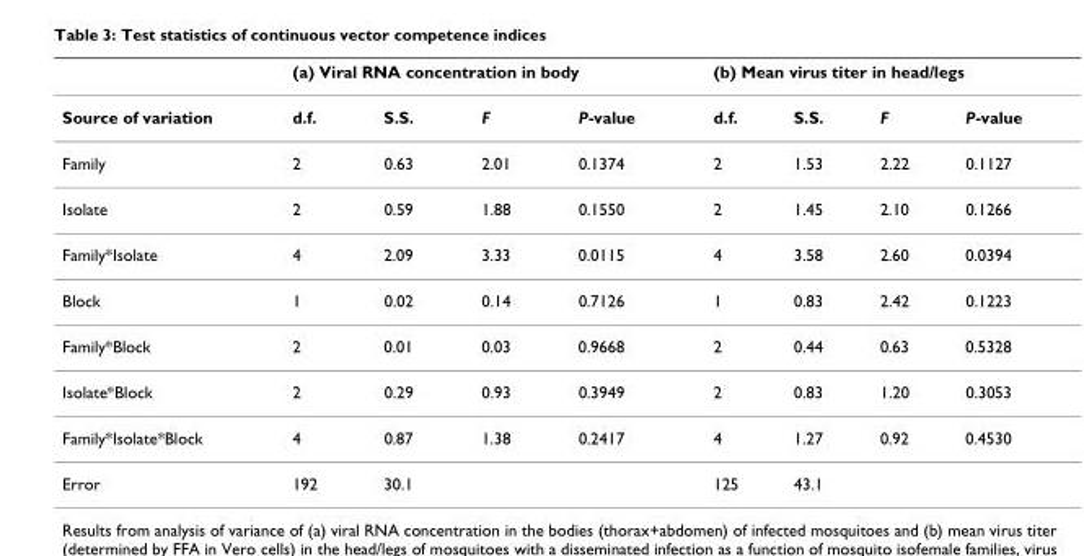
<table><thead><tr><td rowspan="2">Source of variation</td><td colspan="4">(a) Viral RNA concentration in body</td><td colspan="4">(b) Mean virus titer in head/legs</td></tr><tr><td>d.f.</td><td>S.S.</td><td>F</td><td>P-value</td><td>d.f.</td><td>S.S.</td><td>F</td><td>P-value</td></tr></thead><tbody><tr><td>Family</td><td>2</td><td>0.63</td><td>2.01</td><td>0.1374</td><td>2</td><td>1.53</td><td>2.22</td><td>0.1127</td></tr><tr><td>Isolate</td><td>2</td><td>0.59</td><td>1.88</td><td>0.1550</td><td>2</td><td>1.45</td><td>2.10</td><td>0.1266</td></tr><tr><td>Family*Isolate</td><td>4</td><td>2.09</td><td>3.33</td><td>0.0115</td><td>4</td><td>3.58</td><td>2.60</td><td>0.0394</td></tr><tr><td>Block</td><td>1</td><td>0.02</td><td>0.14</td><td>0.7126</td><td>1</td><td>0.83</td><td>2.42</td><td>0.1223</td></tr><tr><td>Family*Block</td><td>2</td><td>0.01</td><td>0.03</td><td>0.9668</td><td>2</td><td>0.44</td><td>0.63</td><td>0.5328</td></tr><tr><td>Isolate*Block</td><td>2</td><td>0.29</td><td>0.93</td><td>0.3949</td><td>2</td><td>0.83</td><td>1.20</td><td>0.3053</td></tr><tr><td>Family*Isolate*Block</td><td>4</td><td>0.87</td><td>1.38</td><td>0.2417</td><td>4</td><td>1.27</td><td>0.92</td><td>0.4530</td></tr><tr><td>Error</td><td>192</td><td>30.1</td><td></td><td></td><td>125</td><td>43.1</td><td></td><td></td></tr></tbody></table>